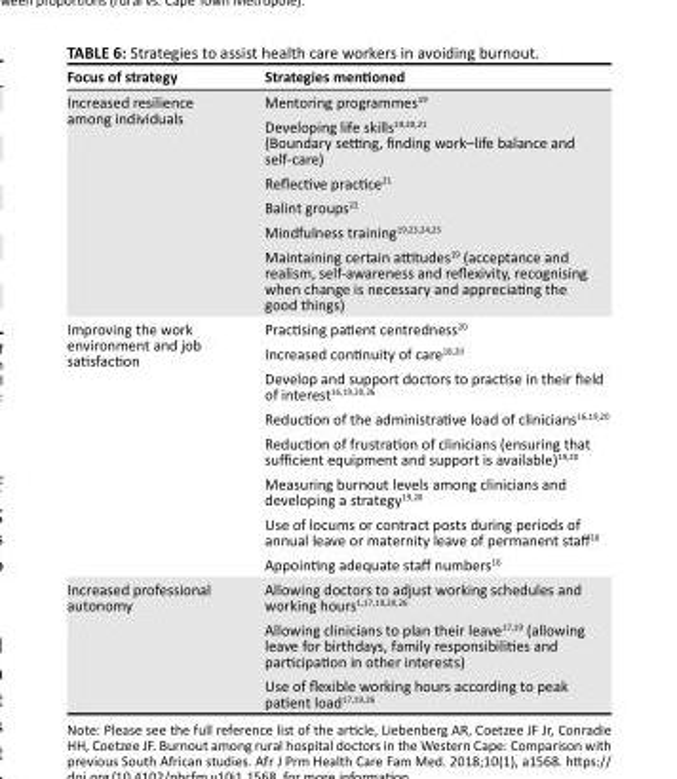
<table><thead><tr><td>Focus of strategy</td><td>Strategies mentioned</td></tr></thead><tbody><tr><td rowspan="6">Increased resilience among individuals</td><td>Mentoring programmes<sup>19</sup></td></tr><tr><td>Developing life skills<sup>19,20,21</sup> (Boundary setting, finding work–life balance and self-care)</td></tr><tr><td>Reflective practice<sup>21</sup></td></tr><tr><td>Balint groups<sup>22</sup></td></tr><tr><td>Mindfulness training<sup>19,23,24,25</sup></td></tr><tr><td>Maintaining certain attitudes<sup>19</sup> (acceptance and realism, self-awareness and reflexivity, recognising when change is necessary and appreciating the good things)</td></tr><tr><td rowspan="8">Improving the work environment and job satisfaction</td><td>Practising patient centredness<sup>20</sup></td></tr><tr><td>Increased continuity of care<sup>18,20</sup></td></tr><tr><td>Develop and support doctors to practise in their field of interest<sup>16,19,20,26</sup></td></tr><tr><td>Reduction of the administrative load of clinicians<sup>16,19,20</sup></td></tr><tr><td>Reduction of frustration of clinicians (ensuring that sufficient equipment and support is available)<sup>19,20</sup></td></tr><tr><td>Measuring burnout levels among clinicians and developing a strategy<sup>19,20</sup></td></tr><tr><td>Use of locums or contract posts during periods of annual leave or maternity leave of permanent staff<sup>16</sup></td></tr><tr><td>Appointing adequate staff numbers<sup>16</sup></td></tr><tr><td rowspan="3">Increased professional autonomy</td><td>Allowing doctors to adjust working schedules and working hours<sup>1,17,19,20,26</sup></td></tr><tr><td>Allowing clinicians to plan their leave<sup>17,19</sup> (allowing leave for birthdays, family responsibilities and participation in other interests)</td></tr><tr><td>Use of flexible working hours according to peak patient load<sup>17,19,26</sup></td></tr></tbody></table>